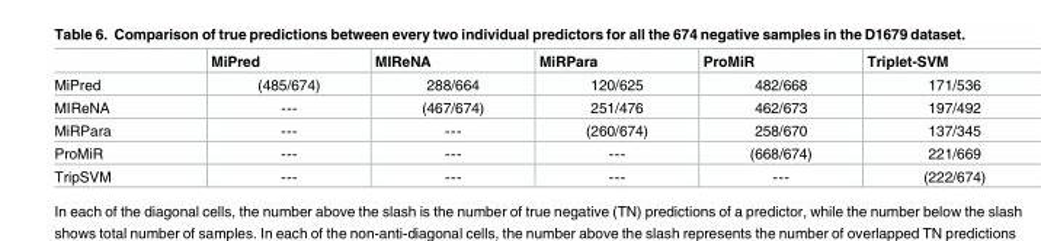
<table><thead><tr><td></td><td>MiPred</td><td>MIReNA</td><td>MiRPara</td><td>ProMiR</td><td>Triplet-SVM</td></tr></thead><tbody><tr><td>MiPred</td><td>(485/674)</td><td>288/664</td><td>120/625</td><td>482/668</td><td>171/536</td></tr><tr><td>MIReNA</td><td>---</td><td>(467/674)</td><td>251/476</td><td>462/673</td><td>197/492</td></tr><tr><td>MiRPara</td><td>---</td><td>---</td><td>(260/674)</td><td>258/670</td><td>137/345</td></tr><tr><td>ProMiR</td><td>---</td><td>---</td><td>---</td><td>(668/674)</td><td>221/669</td></tr><tr><td>TripSVM</td><td>---</td><td>---</td><td>---</td><td>---</td><td>(222/674)</td></tr></tbody></table>